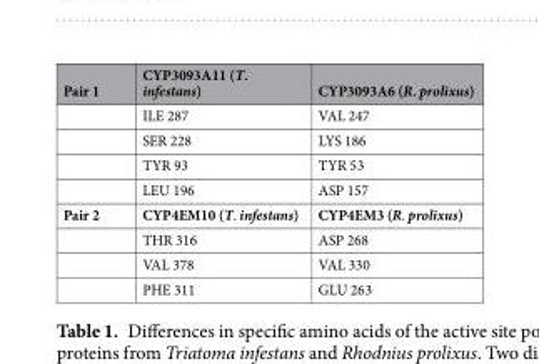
<table><thead><tr><td>Pair 1</td><td>CYP3093A11 (T. infestans)</td><td>CYP3093A6 (R. prolixus)</td></tr></thead><tbody><tr><td></td><td>ILE 287</td><td>VAL 247</td></tr><tr><td></td><td>SER 228</td><td>LYS 186</td></tr><tr><td></td><td>TYR 93</td><td>TYR 53</td></tr><tr><td></td><td>LEU 196</td><td>ASP 157</td></tr><tr><td rowspan="4">Pair 2</td><td>CYP4EM10 (T. infestans)</td><td>CYP4EM3 (R. prolixus)</td></tr><tr><td>THR 316</td><td>ASP 268</td></tr><tr><td>VAL 378</td><td>VAL 330</td></tr><tr><td>PHE 311</td><td>GLU 263</td></tr></tbody></table>